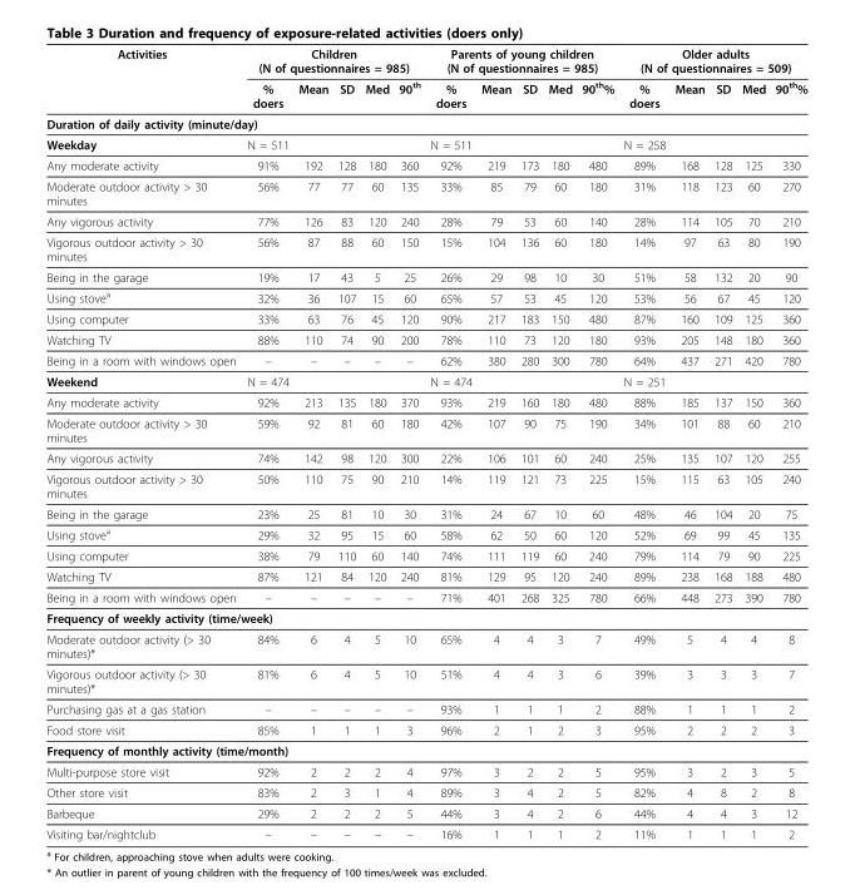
<table><thead><tr><td rowspan="2">Activities</td><td colspan="5">Children (N of questionnaires = 985)</td><td colspan="5">Parents of young children (N of questionnaires = 985)</td><td colspan="5">Older adults (N of questionnaires = 509)</td></tr><tr><td>% doers</td><td>Mean</td><td>SD</td><td>Med</td><td>90th</td><td>% doers</td><td>Mean</td><td>SD</td><td>Med</td><td>90th%</td><td>% doers</td><td>Mean</td><td>SD</td><td>Med</td><td>90th%</td></tr></thead><tbody><tr><td colspan="16">Duration of daily activity (minute/day)</td></tr><tr><td>Weekday</td><td>N = 511</td><td></td><td></td><td></td><td></td><td>N = 511</td><td></td><td></td><td></td><td></td><td>N = 258</td><td></td><td></td><td></td><td></td></tr><tr><td>Any moderate activity</td><td>91%</td><td>192</td><td>128</td><td>180</td><td>360</td><td>92%</td><td>219</td><td>173</td><td>180</td><td>480</td><td>89%</td><td>168</td><td>128</td><td>125</td><td>330</td></tr><tr><td>Moderate outdoor activity &gt; 30 minutes</td><td>56%</td><td>77</td><td>77</td><td>60</td><td>135</td><td>33%</td><td>85</td><td>79</td><td>60</td><td>180</td><td>31%</td><td>118</td><td>123</td><td>60</td><td>270</td></tr><tr><td>Any vigorous activity</td><td>77%</td><td>126</td><td>83</td><td>120</td><td>240</td><td>28%</td><td>79</td><td>53</td><td>60</td><td>140</td><td>28%</td><td>114</td><td>105</td><td>70</td><td>210</td></tr><tr><td>Vigorous outdoor activity &gt; 30 minutes</td><td>56%</td><td>87</td><td>88</td><td>60</td><td>150</td><td>15%</td><td>104</td><td>136</td><td>60</td><td>180</td><td>14%</td><td>97</td><td>63</td><td>80</td><td>190</td></tr><tr><td>Being in the garage</td><td>19%</td><td>17</td><td>43</td><td>5</td><td>25</td><td>26%</td><td>29</td><td>98</td><td>10</td><td>30</td><td>51%</td><td>58</td><td>132</td><td>20</td><td>90</td></tr><tr><td>Using stovea</td><td>32%</td><td>36</td><td>107</td><td>15</td><td>60</td><td>65%</td><td>57</td><td>53</td><td>45</td><td>120</td><td>53%</td><td>56</td><td>67</td><td>45</td><td>120</td></tr><tr><td>Using computer</td><td>33%</td><td>63</td><td>76</td><td>45</td><td>120</td><td>90%</td><td>217</td><td>183</td><td>150</td><td>480</td><td>87%</td><td>160</td><td>109</td><td>125</td><td>360</td></tr><tr><td>Watching TV</td><td>88%</td><td>110</td><td>74</td><td>90</td><td>200</td><td>78%</td><td>110</td><td>73</td><td>120</td><td>180</td><td>93%</td><td>205</td><td>148</td><td>180</td><td>360</td></tr><tr><td>Being in a room with windows open</td><td>–</td><td>–</td><td>–</td><td>–</td><td>–</td><td>62%</td><td>380</td><td>280</td><td>300</td><td>780</td><td>64%</td><td>437</td><td>271</td><td>420</td><td>780</td></tr><tr><td>Weekend</td><td>N = 474</td><td></td><td></td><td></td><td></td><td>N = 474</td><td></td><td></td><td></td><td></td><td>N = 251</td><td></td><td></td><td></td><td></td></tr><tr><td>Any moderate activity</td><td>92%</td><td>213</td><td>135</td><td>180</td><td>370</td><td>93%</td><td>219</td><td>160</td><td>180</td><td>480</td><td>88%</td><td>185</td><td>137</td><td>150</td><td>360</td></tr><tr><td>Moderate outdoor activity &gt; 30 minutes</td><td>59%</td><td>92</td><td>81</td><td>60</td><td>180</td><td>42%</td><td>107</td><td>90</td><td>75</td><td>190</td><td>34%</td><td>101</td><td>88</td><td>60</td><td>210</td></tr><tr><td>Any vigorous activity</td><td>74%</td><td>142</td><td>98</td><td>120</td><td>300</td><td>22%</td><td>106</td><td>101</td><td>60</td><td>240</td><td>25%</td><td>135</td><td>107</td><td>120</td><td>255</td></tr><tr><td>Vigorous outdoor activity &gt; 30 minutes</td><td>50%</td><td>110</td><td>75</td><td>90</td><td>210</td><td>14%</td><td>119</td><td>121</td><td>73</td><td>225</td><td>15%</td><td>115</td><td>63</td><td>105</td><td>240</td></tr><tr><td>Being in the garage</td><td>23%</td><td>25</td><td>81</td><td>10</td><td>30</td><td>31%</td><td>24</td><td>67</td><td>10</td><td>60</td><td>48%</td><td>46</td><td>104</td><td>20</td><td>75</td></tr><tr><td>Using stovea</td><td>29%</td><td>32</td><td>95</td><td>15</td><td>60</td><td>58%</td><td>62</td><td>50</td><td>60</td><td>120</td><td>52%</td><td>69</td><td>99</td><td>45</td><td>135</td></tr><tr><td>Using computer</td><td>38%</td><td>79</td><td>110</td><td>60</td><td>140</td><td>74%</td><td>111</td><td>119</td><td>60</td><td>240</td><td>79%</td><td>114</td><td>79</td><td>90</td><td>225</td></tr><tr><td>Watching TV</td><td>87%</td><td>121</td><td>84</td><td>120</td><td>240</td><td>81%</td><td>129</td><td>95</td><td>120</td><td>240</td><td>89%</td><td>238</td><td>168</td><td>188</td><td>480</td></tr><tr><td>Being in a room with windows open</td><td>–</td><td>–</td><td>–</td><td>–</td><td>–</td><td>71%</td><td>401</td><td>268</td><td>325</td><td>780</td><td>66%</td><td>448</td><td>273</td><td>390</td><td>780</td></tr><tr><td colspan="16">Frequency of weekly activity (time/week)</td></tr><tr><td>Moderate outdoor activity (&gt; 30 minutes)*</td><td>84%</td><td>6</td><td>4</td><td>5</td><td>10</td><td>65%</td><td>4</td><td>4</td><td>3</td><td>7</td><td>49%</td><td>5</td><td>4</td><td>4</td><td>8</td></tr><tr><td>Vigorous outdoor activity (&gt; 30 minutes)*</td><td>81%</td><td>6</td><td>4</td><td>5</td><td>10</td><td>51%</td><td>4</td><td>4</td><td>3</td><td>6</td><td>39%</td><td>3</td><td>3</td><td>3</td><td>7</td></tr><tr><td>Purchasing gas at a gas station</td><td>–</td><td>–</td><td>–</td><td>–</td><td>–</td><td>93%</td><td>1</td><td>1</td><td>1</td><td>2</td><td>88%</td><td>1</td><td>1</td><td>1</td><td>2</td></tr><tr><td>Food store visit</td><td>85%</td><td>1</td><td>1</td><td>1</td><td>3</td><td>96%</td><td>2</td><td>1</td><td>2</td><td>3</td><td>95%</td><td>2</td><td>2</td><td>2</td><td>3</td></tr><tr><td colspan="16">Frequency of monthly activity (time/month)</td></tr><tr><td>Multi-purpose store visit</td><td>92%</td><td>2</td><td>2</td><td>2</td><td>4</td><td>97%</td><td>3</td><td>2</td><td>2</td><td>5</td><td>95%</td><td>3</td><td>2</td><td>3</td><td>5</td></tr><tr><td>Other store visit</td><td>83%</td><td>2</td><td>3</td><td>1</td><td>4</td><td>89%</td><td>3</td><td>4</td><td>2</td><td>5</td><td>82%</td><td>4</td><td>8</td><td>2</td><td>8</td></tr><tr><td>Barbeque</td><td>29%</td><td>2</td><td>2</td><td>2</td><td>5</td><td>44%</td><td>3</td><td>4</td><td>2</td><td>6</td><td>44%</td><td>4</td><td>4</td><td>3</td><td>12</td></tr><tr><td>Visiting bar/nightclub</td><td>–</td><td>–</td><td>–</td><td>–</td><td>–</td><td>16%</td><td>1</td><td>1</td><td>1</td><td>2</td><td>11%</td><td>1</td><td>1</td><td>1</td><td>2</td></tr></tbody></table>